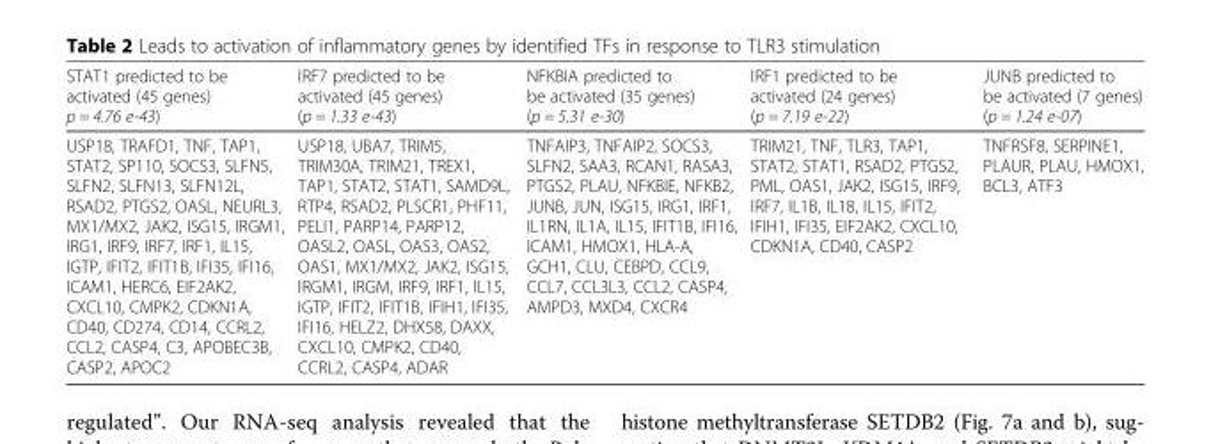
<table><thead><tr><td>STAT1 predicted to be activated (45 genes) p = 4.76 e-43)</td><td>IRF7 predicted to be activated (45 genes) (p = 1.33 e-43)</td><td>NFKBIA predicted to be activated (35 genes) (p = 5.31 e-30)</td><td>IRF1 predicted to be activated (24 genes) (p = 7.19 e-22)</td><td>JUNB predicted to be activated (7 genes) (p = 1.24 e-07)</td></tr></thead><tbody><tr><td>USP18, TRAFD1, TNF, TAP1, STAT2, SP110, SOCS3, SLFN5, SLFN2, SLFN13, SLFN12L, RSAD2, PTGS2, OASL, NEURL3, MX1/MX2, JAK2, ISG15, IRGM1, IRG1, IRF9, IRF7, IRF1, IL15, IGTP, IFIT2, IFIT1B, IFI35, IFI16, ICAM1, HERC6, EIF2AK2, CXCL10, CMPK2, CDKN1A, CD40, CD274, CD14, CCRL2, CCL2, CASP4, C3, APOBEC3B, CASP2, APOC2</td><td>USP18, UBA7, TRIM5, TRIM30A, TRIM21, TREX1, TAP1, STAT2, STAT1, SAMD9L, RTP4, RSAD2, PLSCR1, PHF11, PELI1, PARP14, PARP12, OASL2, OASL, OAS3, OAS2, OAS1, MX1/MX2, JAK2, ISG15, IRGM1, IRGM, IRF9, IRF1, IL15, IGTP, IFIT2, IFIT1B, IFIH1, IFI35, IFI16, HELZ2, DHX58, DAXX, CXCL10, CMPK2, CD40, CCRL2, CASP4, ADAR</td><td>TNFAIP3, TNFAIP2, SOCS3, SLFN2, SAA3, RCAN1, RASA3, PTGS2, PLAU, NFKBIE, NFKB2, JUNB, JUN, ISG15, IRG1, IRF1, IL1RN, IL1A, IL15, IFIT1B, IFI16, ICAM1, HMOX1, HLA-A, GCH1, CLU, CEBPD, CCL9, CCL7, CCL3L3, CCL2, CASP4, AMPD3, MXD4, CXCR4</td><td>TRIM21, TNF, TLR3, TAP1, STAT2, STAT1, RSAD2, PTGS2, PML, OAS1, JAK2, ISG15, IRF9, IRF7, IL1B, IL18, IL15, IFIT2, IFIH1, IFI35, EIF2AK2, CXCL10, CDKN1A, CD40, CASP2</td><td>TNFRSF8, SERPINE1, PLAUR, PLAU, HMOX1, BCL3, ATF3</td></tr></tbody></table>